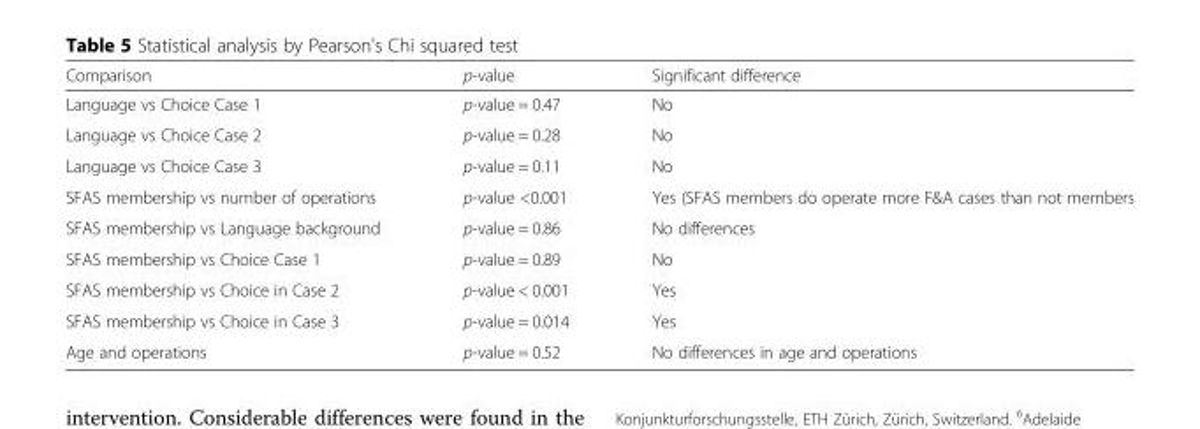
<table><thead><tr><td>Comparison</td><td>p-value</td><td>Significant difference</td></tr></thead><tbody><tr><td>Language vs Choice Case 1</td><td>p-value = 0.47</td><td>No</td></tr><tr><td>Language vs Choice Case 2</td><td>p-value = 0.28</td><td>No</td></tr><tr><td>Language vs Choice Case 3</td><td>p-value = 0.11</td><td>No</td></tr><tr><td>SFAS membership vs number of operations</td><td>p-value &lt;0.001</td><td>Yes (SFAS members do operate more F&amp;A cases than not members</td></tr><tr><td>SFAS membership vs Language background</td><td>p-value = 0.86</td><td>No differences</td></tr><tr><td>SFAS membership vs Choice Case 1</td><td>p-value = 0.89</td><td>No</td></tr><tr><td>SFAS membership vs Choice in Case 2</td><td>p-value &lt; 0.001</td><td>Yes</td></tr><tr><td>SFAS membership vs Choice in Case 3</td><td>p-value = 0.014</td><td>Yes</td></tr><tr><td>Age and operations</td><td>p-value = 0.52</td><td>No differences in age and operations</td></tr></tbody></table>